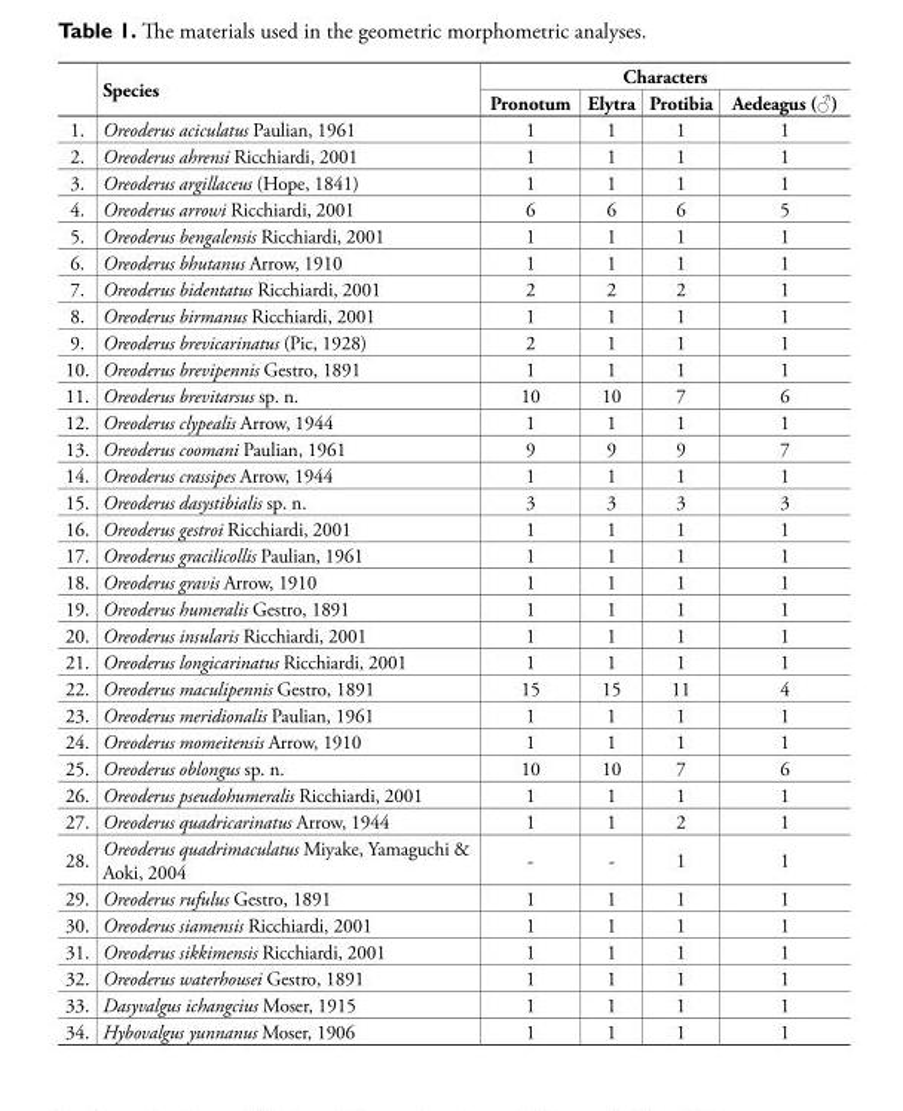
<table><thead><tr><td rowspan="2"></td><td rowspan="2">Species</td><td colspan="4">Characters</td></tr><tr><td>Pronotum</td><td>Elytra</td><td>Protibia</td><td>Aedeagus (♂)</td></tr></thead><tbody><tr><td>1.</td><td>Oreoderus aciculatus Paulian, 1961</td><td>1</td><td>1</td><td>1</td><td>1</td></tr><tr><td>2.</td><td>Oreoderus ahrensi Ricchiardi, 2001</td><td>1</td><td>1</td><td>1</td><td>1</td></tr><tr><td>3.</td><td>Oreoderus argillaceus (Hope, 1841)</td><td>1</td><td>1</td><td>1</td><td>1</td></tr><tr><td>4.</td><td>Oreoderus arrowi Ricchiardi, 2001</td><td>6</td><td>6</td><td>6</td><td>5</td></tr><tr><td>5.</td><td>Oreoderus bengalensis Ricchiardi, 2001</td><td>1</td><td>1</td><td>1</td><td>1</td></tr><tr><td>6.</td><td>Oreoderus bhutanus Arrow, 1910</td><td>1</td><td>1</td><td>1</td><td>1</td></tr><tr><td>7.</td><td>Oreoderus bidentatus Ricchiardi, 2001</td><td>2</td><td>2</td><td>2</td><td>1</td></tr><tr><td>8.</td><td>Oreoderus birmanus Ricchiardi, 2001</td><td>1</td><td>1</td><td>1</td><td>1</td></tr><tr><td>9.</td><td>Oreoderus brevicarinatus (Pic, 1928)</td><td>2</td><td>1</td><td>1</td><td>1</td></tr><tr><td>10.</td><td>Oreoderus brevipennis Gestro, 1891</td><td>1</td><td>1</td><td>1</td><td>1</td></tr><tr><td>11.</td><td>Oreoderus brevitarsus sp. n.</td><td>10</td><td>10</td><td>7</td><td>6</td></tr><tr><td>12.</td><td>Oreoderus clypealis Arrow, 1944</td><td>1</td><td>1</td><td>1</td><td>1</td></tr><tr><td>13.</td><td>Oreoderus coomani Paulian, 1961</td><td>9</td><td>9</td><td>9</td><td>7</td></tr><tr><td>14.</td><td>Oreoderus crassipes Arrow, 1944</td><td>1</td><td>1</td><td>1</td><td>1</td></tr><tr><td>15.</td><td>Oreoderus dasystibialis sp. n.</td><td>3</td><td>3</td><td>3</td><td>3</td></tr><tr><td>16.</td><td>Oreoderus gestroi Ricchiardi, 2001</td><td>1</td><td>1</td><td>1</td><td>1</td></tr><tr><td>17.</td><td>Oreoderus gracilicollis Paulian, 1961</td><td>1</td><td>1</td><td>1</td><td>1</td></tr><tr><td>18.</td><td>Oreoderus gravis Arrow, 1910</td><td>1</td><td>1</td><td>1</td><td>1</td></tr><tr><td>19.</td><td>Oreoderus humeralis Gestro, 1891</td><td>1</td><td>1</td><td>1</td><td>1</td></tr><tr><td>20.</td><td>Oreoderus insularis Ricchiardi, 2001</td><td>1</td><td>1</td><td>1</td><td>1</td></tr><tr><td>21.</td><td>Oreoderus longicarinatus Ricchiardi, 2001</td><td>1</td><td>1</td><td>1</td><td>1</td></tr><tr><td>22.</td><td>Oreoderus maculipennis Gestro, 1891</td><td>15</td><td>15</td><td>11</td><td>4</td></tr><tr><td>23.</td><td>Oreoderus meridionalis Paulian, 1961</td><td>1</td><td>1</td><td>1</td><td>1</td></tr><tr><td>24.</td><td>Oreoderus momeitensis Arrow, 1910</td><td>1</td><td>1</td><td>1</td><td>1</td></tr><tr><td>25.</td><td>Oreoderus oblongus sp. n.</td><td>10</td><td>10</td><td>7</td><td>6</td></tr><tr><td>26.</td><td>Oreoderus pseudohumeralis Ricchiardi, 2001</td><td>1</td><td>1</td><td>1</td><td>1</td></tr><tr><td>27.</td><td>Oreoderus quadricarinatus Arrow, 1944</td><td>1</td><td>1</td><td>2</td><td>1</td></tr><tr><td>28.</td><td>Oreoderus quadrimaculatus Miyake, Yamaguchi &amp; Aoki, 2004</td><td>-</td><td>-</td><td>1</td><td>1</td></tr><tr><td>29.</td><td>Oreoderus rufulus Gestro, 1891</td><td>1</td><td>1</td><td>1</td><td>1</td></tr><tr><td>30.</td><td>Oreoderus siamensis Ricchiardi, 2001</td><td>1</td><td>1</td><td>1</td><td>1</td></tr><tr><td>31.</td><td>Oreoderus sikkimensis Ricchiardi, 2001</td><td>1</td><td>1</td><td>1</td><td>1</td></tr><tr><td>32.</td><td>Oreoderus waterhousei Gestro, 1891</td><td>1</td><td>1</td><td>1</td><td>1</td></tr><tr><td>33.</td><td>Dasyvalgus ichangcius Moser, 1915</td><td>1</td><td>1</td><td>1</td><td>1</td></tr><tr><td>34.</td><td>Hybovalgus yunnanus Moser, 1906</td><td>1</td><td>1</td><td>1</td><td>1</td></tr></tbody></table>